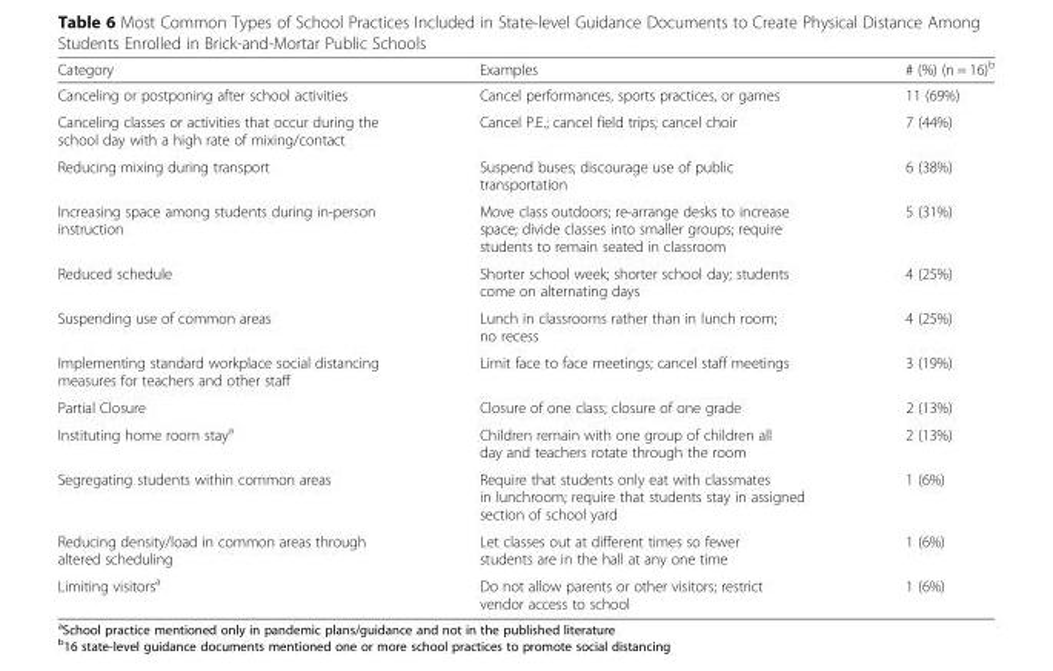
<table><thead><tr><td>Category</td><td>Examples</td><td># (%) (n = 16)<sup>b</sup></td></tr></thead><tbody><tr><td>Canceling or postponing after school activities</td><td>Cancel performances, sports practices, or games</td><td>11 (69%)</td></tr><tr><td>Canceling classes or activities that occur during the school day with a high rate of mixing/contact</td><td>Cancel P.E.; cancel field trips; cancel choir</td><td>7 (44%)</td></tr><tr><td>Reducing mixing during transport</td><td>Suspend buses; discourage use of public transportation</td><td>6 (38%)</td></tr><tr><td>Increasing space among students during in-person instruction</td><td>Move class outdoors; re-arrange desks to increase space; divide classes into smaller groups; require students to remain seated in classroom</td><td>5 (31%)</td></tr><tr><td>Reduced schedule</td><td>Shorter school week; shorter school day; students come on alternating days</td><td>4 (25%)</td></tr><tr><td>Suspending use of common areas</td><td>Lunch in classrooms rather than in lunch room; no recess</td><td>4 (25%)</td></tr><tr><td>Implementing standard workplace social distancing measures for teachers and other staff</td><td>Limit face to face meetings; cancel staff meetings</td><td>3 (19%)</td></tr><tr><td>Partial Closure</td><td>Closure of one class; closure of one grade</td><td>2 (13%)</td></tr><tr><td>Instituting home room stay<sup>a</sup></td><td>Children remain with one group of children all day and teachers rotate through the room</td><td>2 (13%)</td></tr><tr><td>Segregating students within common areas</td><td>Require that students only eat with classmates in lunchroom; require that students stay in assigned section of school yard</td><td>1 (6%)</td></tr><tr><td>Reducing density/load in common areas through altered scheduling</td><td>Let classes out at different times so fewer students are in the hall at any one time</td><td>1 (6%)</td></tr><tr><td>Limiting visitors<sup>a</sup></td><td>Do not allow parents or other visitors; restrict vendor access to school</td><td>1 (6%)</td></tr></tbody></table>